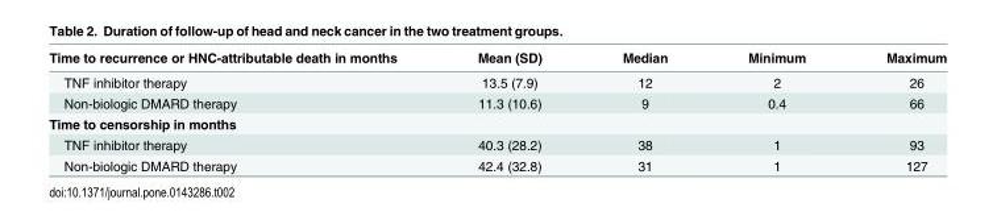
<table><thead><tr><td>Time to recurrence or HNC-attributable death in months</td><td>Mean (SD)</td><td>Median</td><td>Minimum</td><td>Maximum</td></tr></thead><tbody><tr><td>TNF inhibitor therapy</td><td>13.5 (7.9)</td><td>12</td><td>2</td><td>26</td></tr><tr><td>Non-biologic DMARD therapy</td><td>11.3 (10.6)</td><td>9</td><td>0.4</td><td>66</td></tr><tr><td colspan="5">Time to censorship in months</td></tr><tr><td>TNF inhibitor therapy</td><td>40.3 (28.2)</td><td>38</td><td>1</td><td>93</td></tr><tr><td>Non-biologic DMARD therapy</td><td>42.4 (32.8)</td><td>31</td><td>1</td><td>127</td></tr></tbody></table>